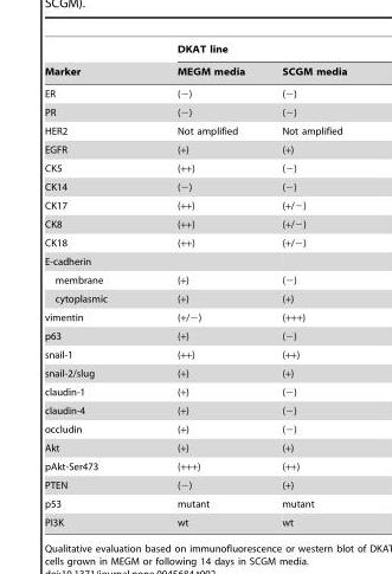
<table><thead><tr><td rowspan="2">Marker</td><td colspan="2">DKAT line</td></tr><tr><td>MEGM media</td><td>SCGM media</td></tr></thead><tbody><tr><td>ER</td><td>(−)</td><td>(−)</td></tr><tr><td>PR</td><td>(−)</td><td>(−)</td></tr><tr><td>HER2</td><td>Not amplified</td><td>Not amplified</td></tr><tr><td>EGFR</td><td>(+)</td><td>(+)</td></tr><tr><td>CK5</td><td>(++)</td><td>(−)</td></tr><tr><td>CK14</td><td>(−)</td><td>(−)</td></tr><tr><td>CK17</td><td>(++)</td><td>(+/−)</td></tr><tr><td>CK8</td><td>(++)</td><td>(+/−)</td></tr><tr><td>CK18</td><td>(++)</td><td>(+/−)</td></tr><tr><td colspan="3">E-cadherin</td></tr><tr><td>membrane</td><td>(+)</td><td>(−)</td></tr><tr><td>cytoplasmic</td><td>(+)</td><td>(+)</td></tr><tr><td>vimentin</td><td>(+/−)</td><td>(+++)</td></tr><tr><td>p63</td><td>(+)</td><td>(−)</td></tr><tr><td>snail-1</td><td>(++)</td><td>(++)</td></tr><tr><td>snail-2/slug</td><td>(+)</td><td>(+)</td></tr><tr><td>claudin-1</td><td>(+)</td><td>(−)</td></tr><tr><td>claudin-4</td><td>(+)</td><td>(−)</td></tr><tr><td>occludin</td><td>(+)</td><td>(−)</td></tr><tr><td>Akt</td><td>(+)</td><td>(+)</td></tr><tr><td>pAkt-Ser473</td><td>(+++)</td><td>(++)</td></tr><tr><td>PTEN</td><td>(−)</td><td>(+)</td></tr><tr><td>p53</td><td>mutant</td><td>mutant</td></tr><tr><td>PI3K</td><td>wt</td><td>wt</td></tr></tbody></table>